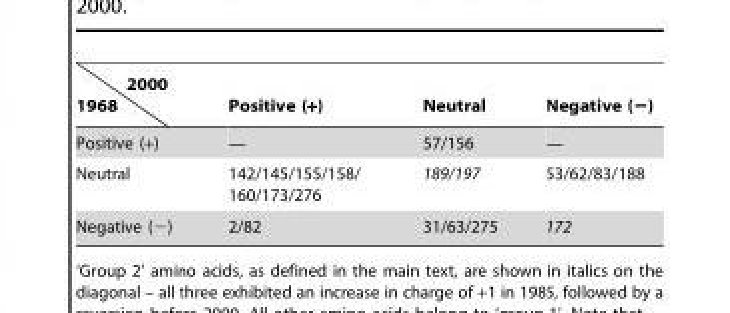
<table><thead><tr><td>2000 1968</td><td>Positive (+)</td><td>Neutral</td><td>Negative (−)</td></tr></thead><tbody><tr><td>Positive (+)</td><td>—</td><td>57/156</td><td>—</td></tr><tr><td>Neutral</td><td>142/145/155/158/ 160/173/276</td><td>189/197</td><td>53/62/83/188</td></tr><tr><td>Negative (−)</td><td>2/82</td><td>31/63/275</td><td>172</td></tr></tbody></table>